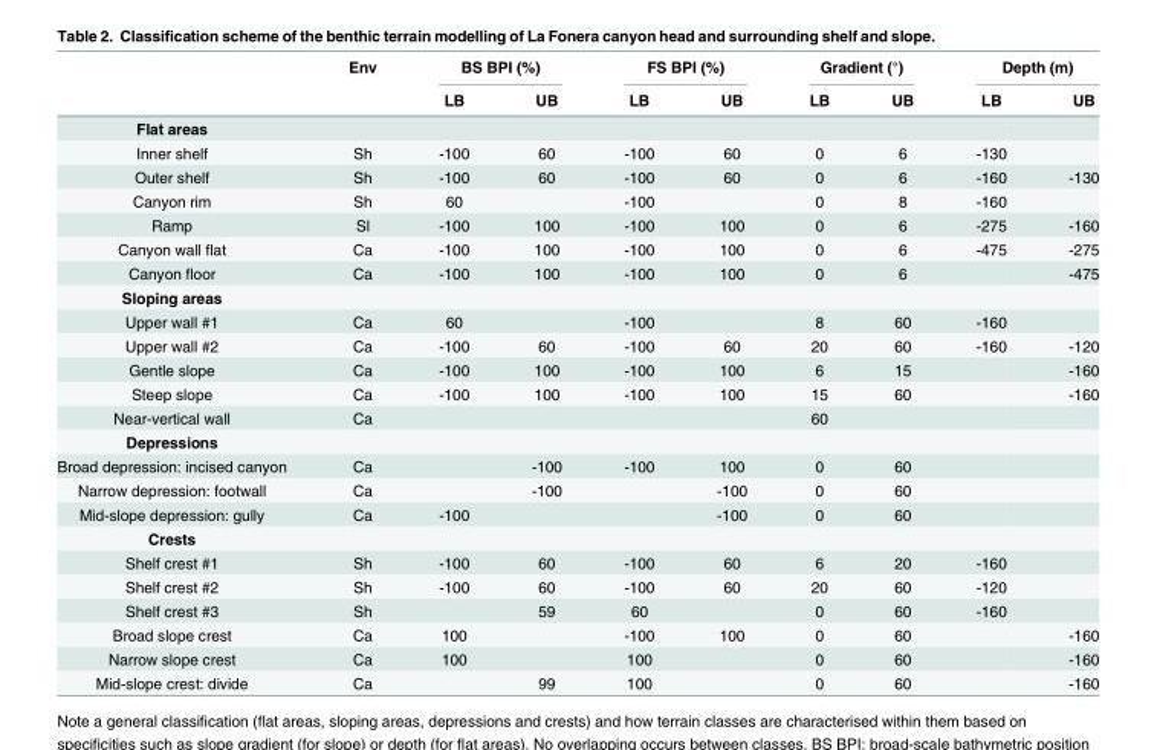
<table><thead><tr><td rowspan="2"></td><td rowspan="2">Env</td><td colspan="2">BS BPI (%)</td><td colspan="2">FS BPI (%)</td><td colspan="2">Gradient (°)</td><td colspan="2">Depth (m)</td></tr><tr><td>LB</td><td>UB</td><td>LB</td><td>UB</td><td>LB</td><td>UB</td><td>LB</td><td>UB</td></tr></thead><tbody><tr><td colspan="10">Flat areas</td></tr><tr><td>Inner shelf</td><td>Sh</td><td>-100</td><td>60</td><td>-100</td><td>60</td><td>0</td><td>6</td><td>-130</td><td></td></tr><tr><td>Outer shelf</td><td>Sh</td><td>-100</td><td>60</td><td>-100</td><td>60</td><td>0</td><td>6</td><td>-160</td><td>-130</td></tr><tr><td>Canyon rim</td><td>Sh</td><td>60</td><td></td><td>-100</td><td></td><td>0</td><td>8</td><td>-160</td><td></td></tr><tr><td>Ramp</td><td>Sl</td><td>-100</td><td>100</td><td>-100</td><td>100</td><td>0</td><td>6</td><td>-275</td><td>-160</td></tr><tr><td>Canyon wall flat</td><td>Ca</td><td>-100</td><td>100</td><td>-100</td><td>100</td><td>0</td><td>6</td><td>-475</td><td>-275</td></tr><tr><td>Canyon floor</td><td>Ca</td><td>-100</td><td>100</td><td>-100</td><td>100</td><td>0</td><td>6</td><td></td><td>-475</td></tr><tr><td colspan="10">Sloping areas</td></tr><tr><td>Upper wall #1</td><td>Ca</td><td>60</td><td></td><td>-100</td><td></td><td>8</td><td>60</td><td>-160</td><td></td></tr><tr><td>Upper wall #2</td><td>Ca</td><td>-100</td><td>60</td><td>-100</td><td>60</td><td>20</td><td>60</td><td>-160</td><td>-120</td></tr><tr><td>Gentle slope</td><td>Ca</td><td>-100</td><td>100</td><td>-100</td><td>100</td><td>6</td><td>15</td><td></td><td>-160</td></tr><tr><td>Steep slope</td><td>Ca</td><td>-100</td><td>100</td><td>-100</td><td>100</td><td>15</td><td>60</td><td></td><td>-160</td></tr><tr><td>Near-vertical wall</td><td>Ca</td><td></td><td></td><td></td><td></td><td>60</td><td></td><td></td><td></td></tr><tr><td colspan="10">Depressions</td></tr><tr><td>Broad depression: incised canyon</td><td>Ca</td><td></td><td>-100</td><td>-100</td><td>100</td><td>0</td><td>60</td><td></td><td></td></tr><tr><td>Narrow depression: footwall</td><td>Ca</td><td></td><td>-100</td><td></td><td>-100</td><td>0</td><td>60</td><td></td><td></td></tr><tr><td>Mid-slope depression: gully</td><td>Ca</td><td>-100</td><td></td><td></td><td>-100</td><td>0</td><td>60</td><td></td><td></td></tr><tr><td colspan="10">Crests</td></tr><tr><td>Shelf crest #1</td><td>Sh</td><td>-100</td><td>60</td><td>-100</td><td>60</td><td>6</td><td>20</td><td>-160</td><td></td></tr><tr><td>Shelf crest #2</td><td>Sh</td><td>-100</td><td>60</td><td>-100</td><td>60</td><td>20</td><td>60</td><td>-120</td><td></td></tr><tr><td>Shelf crest #3</td><td>Sh</td><td></td><td>59</td><td>60</td><td></td><td>0</td><td>60</td><td>-160</td><td></td></tr><tr><td>Broad slope crest</td><td>Ca</td><td>100</td><td></td><td>-100</td><td>100</td><td>0</td><td>60</td><td></td><td>-160</td></tr><tr><td>Narrow slope crest</td><td>Ca</td><td>100</td><td></td><td>100</td><td></td><td>0</td><td>60</td><td></td><td>-160</td></tr><tr><td>Mid-slope crest: divide</td><td>Ca</td><td></td><td>99</td><td>100</td><td></td><td>0</td><td>60</td><td></td><td>-160</td></tr></tbody></table>